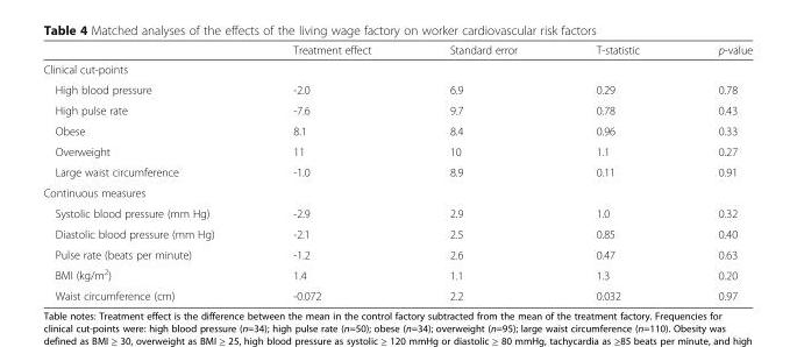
<table><thead><tr><td></td><td>Treatment effect</td><td>Standard error</td><td>T-statistic</td><td>p-value</td></tr></thead><tbody><tr><td colspan="5">Clinical cut-points</td></tr><tr><td>High blood pressure</td><td>-2.0</td><td>6.9</td><td>0.29</td><td>0.78</td></tr><tr><td>High pulse rate</td><td>-7.6</td><td>9.7</td><td>0.78</td><td>0.43</td></tr><tr><td>Obese</td><td>8.1</td><td>8.4</td><td>0.96</td><td>0.33</td></tr><tr><td>Overweight</td><td>11</td><td>10</td><td>1.1</td><td>0.27</td></tr><tr><td>Large waist circumference</td><td>-1.0</td><td>8.9</td><td>0.11</td><td>0.91</td></tr><tr><td colspan="5">Continuous measures</td></tr><tr><td>Systolic blood pressure (mm Hg)</td><td>-2.9</td><td>2.9</td><td>1.0</td><td>0.32</td></tr><tr><td>Diastolic blood pressure (mm Hg)</td><td>-2.1</td><td>2.5</td><td>0.85</td><td>0.40</td></tr><tr><td>Pulse rate (beats per minute)</td><td>-1.2</td><td>2.6</td><td>0.47</td><td>0.63</td></tr><tr><td>BMI (kg/m<sup>2</sup>)</td><td>1.4</td><td>1.1</td><td>1.3</td><td>0.20</td></tr><tr><td>Waist circumference (cm)</td><td>-0.072</td><td>2.2</td><td>0.032</td><td>0.97</td></tr></tbody></table>